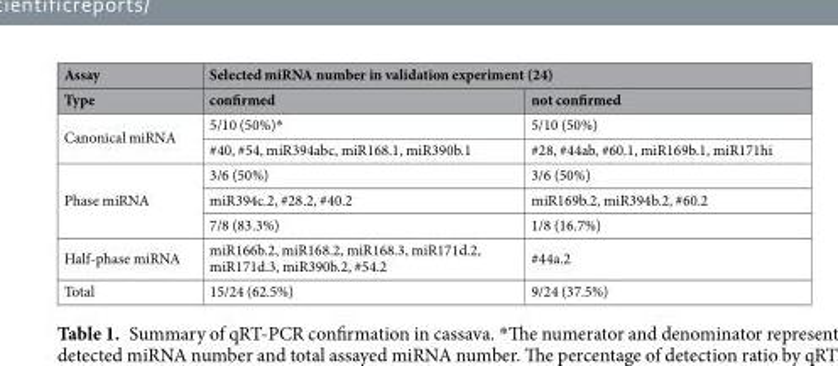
<table><thead><tr><td rowspan="2">Assay Type</td><td colspan="2">Selected miRNA number in validation experiment (24)</td></tr><tr><td>confirmed</td><td>not confirmed</td></tr></thead><tbody><tr><td rowspan="2">Canonical miRNA</td><td>5/10 (50%)*</td><td>5/10 (50%)</td></tr><tr><td>#40, #54, miR394abc, miR168.1, miR390b.1</td><td>#28, #44ab, #60.1, miR169b.1, miR171hi</td></tr><tr><td rowspan="3">Phase miRNA</td><td>3/6 (50%)</td><td>3/6 (50%)</td></tr><tr><td>miR394c.2, #28.2, #40.2</td><td>miR169b.2, miR394b.2, #60.2</td></tr><tr><td>7/8 (83.3%)</td><td>1/8 (16.7%)</td></tr><tr><td>Half-phase miRNA</td><td>miR166b.2, miR168.2, miR168.3, miR171d.2, miR171d.3, miR390b.2, #54.2</td><td>#44a.2</td></tr><tr><td>Total</td><td>15/24 (62.5%)</td><td>9/24 (37.5%)</td></tr></tbody></table>